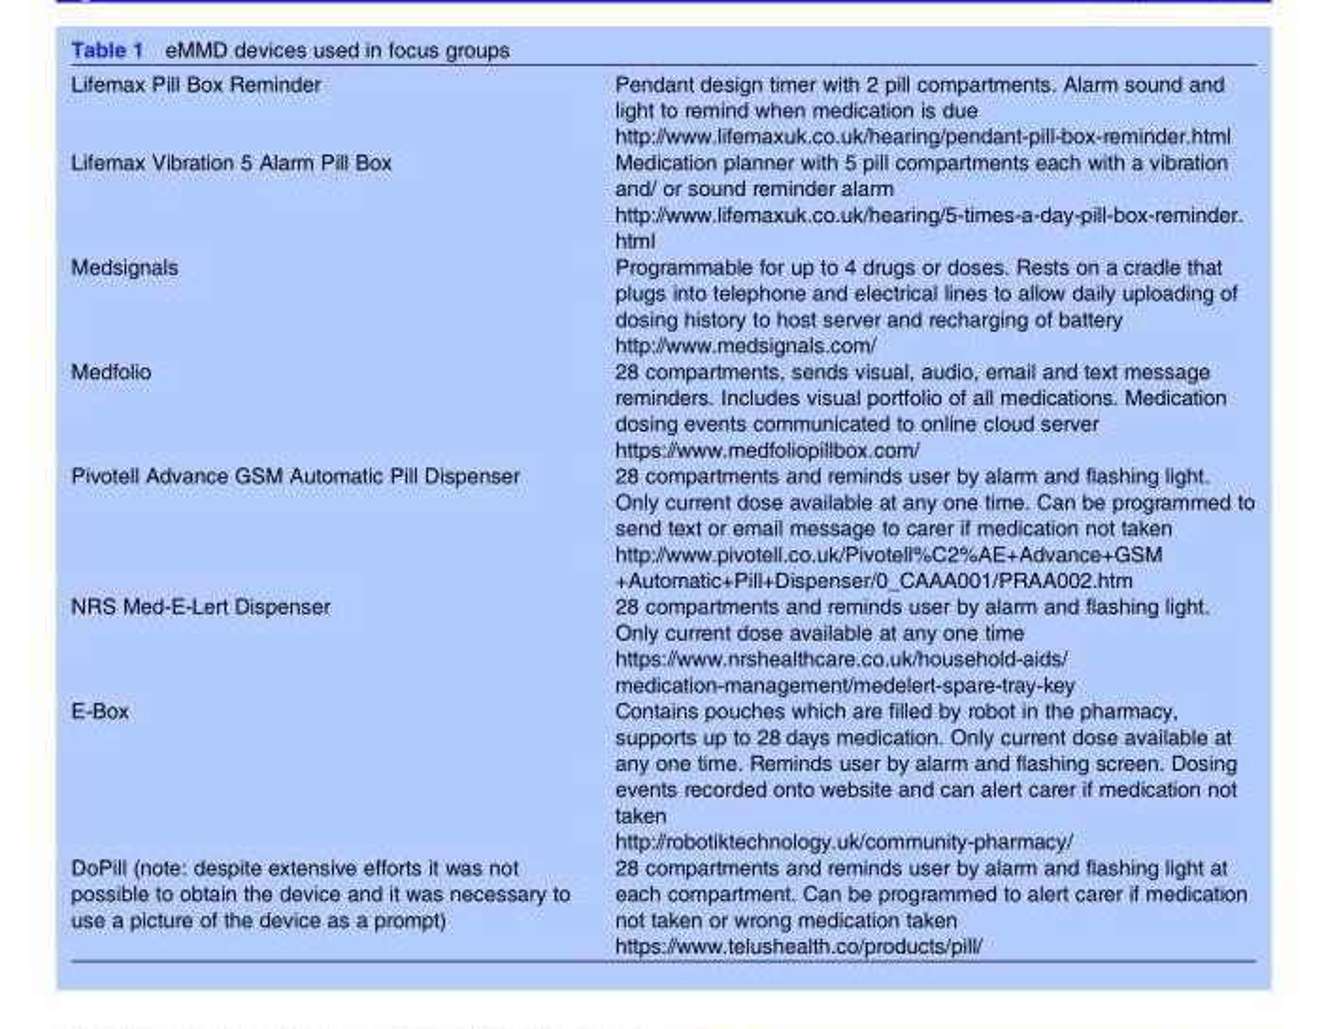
<table><tbody><tr><td>Lifemax Pill Box Reminder</td><td>Pendant design timer with 2 pill compartments. Alarm sound and light to remind when medication is due http://www.lifemaxuk.co.uk/hearing/pendant-pill-box-reminder.html</td></tr><tr><td>Lifemax Vibration 5 Alarm Pill Box</td><td>Medication planner with 5 pill compartments each with a vibration and/ or sound reminder alarm http://www.lifemaxuk.co.uk/hearing/5-times-a-day-pill-box-reminder. html</td></tr><tr><td>Medsignals</td><td>Programmable for up to 4 drugs or doses. Rests on a cradle that plugs into telephone and electrical lines to allow daily uploading of dosing history to host server and recharging of battery http://www.medsignals.com/</td></tr><tr><td>Medfolio</td><td>28 compartments, sends visual, audio, email and text message reminders. Includes visual portfolio of all medications. Medication dosing events communicated to online cloud server https://www.medfoliopillbox.com/</td></tr><tr><td>Pivotell Advance GSM Automatic Pill Dispenser</td><td>28 compartments and reminds user by alarm and flashing light. Only current dose available at any one time. Can be programmed to send text or email message to carer if medication not taken http://www.pivotell.co.uk/Pivotell%C2%AE+Advance+GSM +Automatic+Pill+Dispenser/0_CAAA001/PRAA002.htm</td></tr><tr><td>NRS Med-E-Lert Dispenser</td><td>28 compartments and reminds user by alarm and flashing light. Only current dose available at any one time https://www.nrshealthcare.co.uk/household-aids/ medication-management/medelert-spare-tray-key</td></tr><tr><td>E-Box</td><td>Contains pouches which are filled by robot in the pharmacy, supports up to 28 days medication. Only current dose available at any one time. Reminds user by alarm and flashing screen. Dosing events recorded onto website and can alert carer if medication not taken http://robotiktechnology.uk/community-pharmacy/</td></tr><tr><td>DoPill (note: despite extensive efforts it was not possible to obtain the device and it was necessary to use a picture of the device as a prompt)</td><td>28 compartments and reminds user by alarm and flashing light at each compartment. Can be programmed to alert carer if medication not taken or wrong medication taken https://www.telushealth.co/products/pill/</td></tr></tbody></table>